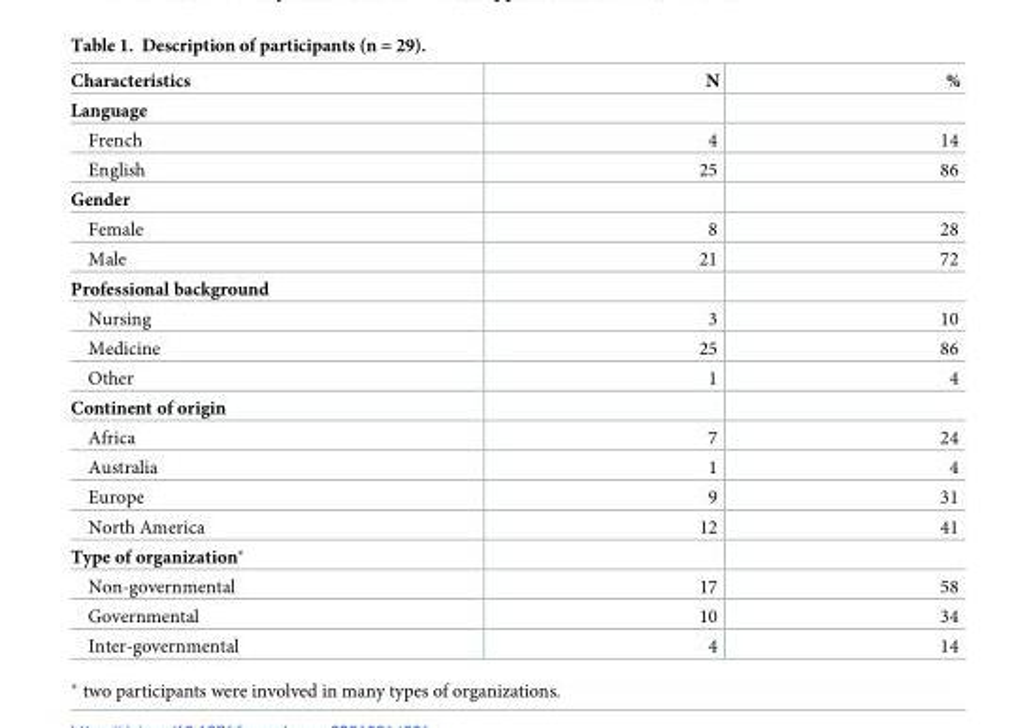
<table><thead><tr><td>Characteristics</td><td>N</td><td>%</td></tr></thead><tbody><tr><td colspan="3">Language</td></tr><tr><td>French</td><td>4</td><td>14</td></tr><tr><td>English</td><td>25</td><td>86</td></tr><tr><td colspan="3">Gender</td></tr><tr><td rowspan="2">Female Male</td><td>8</td><td>28</td></tr><tr><td>21</td><td>72</td></tr><tr><td colspan="3">Professional background</td></tr><tr><td>Nursing</td><td>3</td><td>10</td></tr><tr><td>Medicine</td><td>25</td><td>86</td></tr><tr><td>Other</td><td>1</td><td>4</td></tr><tr><td colspan="3">Continent of origin</td></tr><tr><td>Africa</td><td>7</td><td>24</td></tr><tr><td>Australia</td><td>1</td><td>4</td></tr><tr><td>Europe</td><td>9</td><td>31</td></tr><tr><td>North America</td><td>12</td><td>41</td></tr><tr><td colspan="3">Type of organization*</td></tr><tr><td>Non-governmental</td><td>17</td><td>58</td></tr><tr><td>Governmental</td><td>10</td><td>34</td></tr><tr><td>Inter-governmental</td><td>4</td><td>14</td></tr></tbody></table>